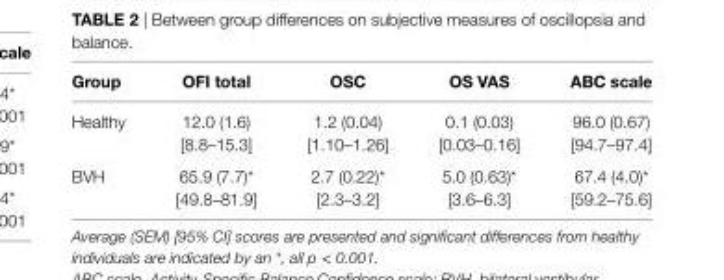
<table><thead><tr><td>group</td><td>OFi total</td><td>Osc</td><td>Os Vas</td><td>aBc scale</td></tr></thead><tbody><tr><td rowspan="2">Healthy</td><td>12.0 (1.6)</td><td>1.2 (0.04)</td><td>0.1 (0.03)</td><td>96.0 (0.67)</td></tr><tr><td>[8.8–15.3]</td><td>[1.10–1.26]</td><td>[0.03–0.16]</td><td>[94.7–97.4]</td></tr><tr><td rowspan="2">BVH</td><td>65.9 (7.7)*</td><td>2.7 (0.22)*</td><td>5.0 (0.63)*</td><td>67.4 (4.0)*</td></tr><tr><td>[49.8–81.9]</td><td>[2.3–3.2]</td><td>[3.6–6.3]</td><td>[59.2–75.6]</td></tr></tbody></table>